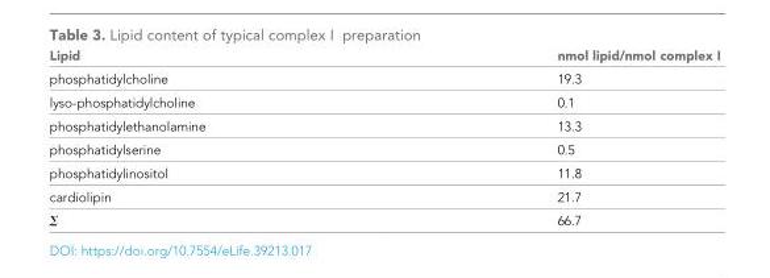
<table><thead><tr><td>Lipid</td><td>nmol lipid/nmol complex I</td></tr></thead><tbody><tr><td>phosphatidylcholine</td><td>19.3</td></tr><tr><td>lyso-phosphatidylcholine</td><td>0.1</td></tr><tr><td>phosphatidylethanolamine</td><td>13.3</td></tr><tr><td>phosphatidylserine</td><td>0.5</td></tr><tr><td>phosphatidylinositol</td><td>11.8</td></tr><tr><td>cardiolipin</td><td>21.7</td></tr><tr><td>Σ</td><td>66.7</td></tr></tbody></table>